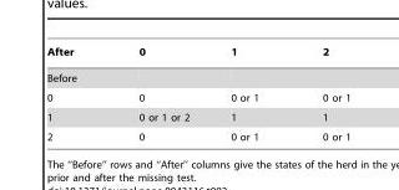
<table><thead><tr><td>After</td><td>0</td><td>1</td><td>2</td></tr></thead><tbody><tr><td colspan="4">Before</td></tr><tr><td>0</td><td>0</td><td>0 or 1</td><td>0 or 1</td></tr><tr><td>1</td><td>0 or 1 or 2</td><td>1</td><td>1</td></tr><tr><td>2</td><td>0</td><td>0 or 1</td><td>0 or 1</td></tr></tbody></table>